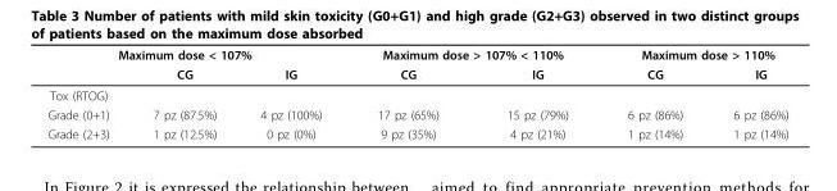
<table><thead><tr><td colspan="3">Maximum dose &lt; 107%</td><td colspan="2">Maximum dose &gt; 107% &lt; 110%</td><td colspan="2">Maximum dose &gt; 110%</td></tr><tr><td></td><td>CG</td><td>IG</td><td>CG</td><td>IG</td><td>CG</td><td>IG</td></tr></thead><tbody><tr><td colspan="7">Tox (RTOG)</td></tr><tr><td>Grade (0+1)</td><td>7 pz (87.5%)</td><td>4 pz (100%)</td><td>17 pz (65%)</td><td>15 pz (79%)</td><td>6 pz (86%)</td><td>6 pz (86%)</td></tr><tr><td>Grade (2+3)</td><td>1 pz (12.5%)</td><td>0 pz (0%)</td><td>9 pz (35%)</td><td>4 pz (21%)</td><td>1 pz (14%)</td><td>1 pz (14%)</td></tr></tbody></table>